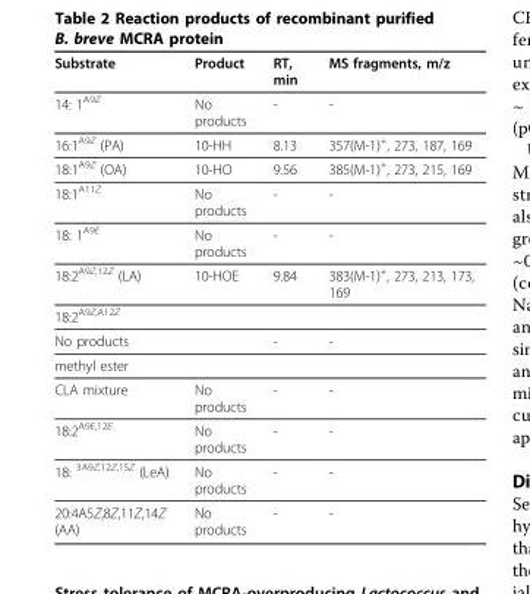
<table><thead><tr><td>Substrate</td><td>Product</td><td>RT, min</td><td>MS fragments, m/z</td></tr></thead><tbody><tr><td>14: 1<sup>A9Z</sup></td><td>No products</td><td>-</td><td>-</td></tr><tr><td>16:1<sup>A9Z</sup> (PA)</td><td>10-HH</td><td>8.13</td><td>357(M-1)<sup>+</sup>, 273, 187, 169</td></tr><tr><td>18:1<sup>A9Z</sup> (OA)</td><td>10-HO</td><td>9.56</td><td>385(M-1)<sup>+</sup>, 273, 215, 169</td></tr><tr><td>18:1<sup>A11Z</sup></td><td>No products</td><td>-</td><td>-</td></tr><tr><td>18: 1<sup>A9E</sup></td><td>No products</td><td>-</td><td>-</td></tr><tr><td>18:2<sup>A9Z,12Z</sup> (LA)</td><td>10-HOE</td><td>9.84</td><td>383(M-1)<sup>+</sup>, 273, 213, 173, 169</td></tr><tr><td colspan="4">18:2<sup>A9Z,A12Z</sup></td></tr><tr><td>No products</td><td></td><td>-</td><td>-</td></tr><tr><td colspan="4">methyl ester</td></tr><tr><td>CLA mixture</td><td>No products</td><td>-</td><td>-</td></tr><tr><td>18:2<sup>A9E,12E</sup></td><td>No products</td><td>-</td><td>-</td></tr><tr><td>18: <sup>3A9Z,12Z,15Z</sup> (LeA)</td><td>No products</td><td>-</td><td>-</td></tr><tr><td>20:4A5Z,8Z,11Z,14Z (AA)</td><td>No products</td><td>-</td><td>-</td></tr></tbody></table>